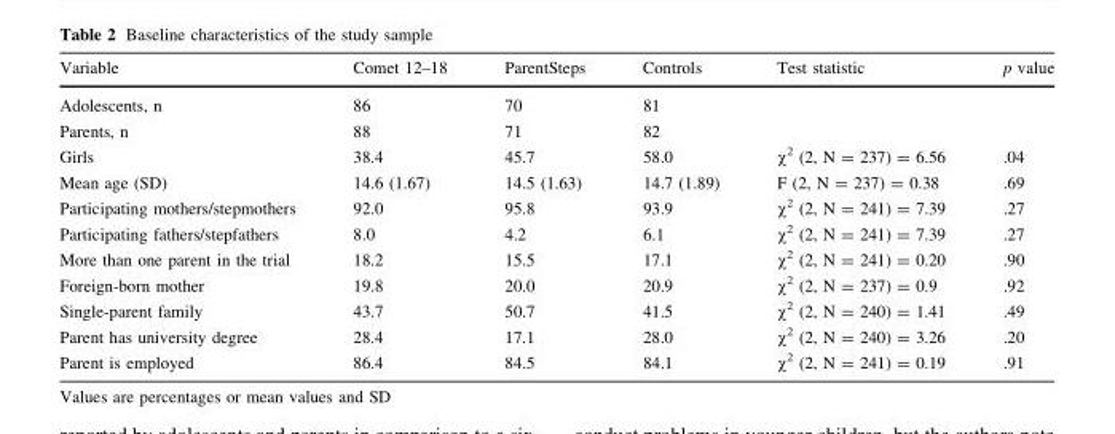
<table><thead><tr><td>Variable</td><td>Comet 12–18</td><td>ParentSteps</td><td>Controls</td><td>Test statistic</td><td>p value</td></tr></thead><tbody><tr><td>Adolescents, n</td><td>86</td><td>70</td><td>81</td><td></td><td></td></tr><tr><td>Parents, n</td><td>88</td><td>71</td><td>82</td><td></td><td></td></tr><tr><td>Girls</td><td>38.4</td><td>45.7</td><td>58.0</td><td>χ<sup>2</sup> (2, N = 237) = 6.56</td><td>.04</td></tr><tr><td>Mean age (SD)</td><td>14.6 (1.67)</td><td>14.5 (1.63)</td><td>14.7 (1.89)</td><td>F (2, N = 237) = 0.38</td><td>.69</td></tr><tr><td>Participating mothers/stepmothers</td><td>92.0</td><td>95.8</td><td>93.9</td><td>χ<sup>2</sup> (2, N = 241) = 7.39</td><td>.27</td></tr><tr><td>Participating fathers/stepfathers</td><td>8.0</td><td>4.2</td><td>6.1</td><td>χ<sup>2</sup> (2, N = 241) = 7.39</td><td>.27</td></tr><tr><td>More than one parent in the trial</td><td>18.2</td><td>15.5</td><td>17.1</td><td>χ<sup>2</sup> (2, N = 241) = 0.20</td><td>.90</td></tr><tr><td>Foreign-born mother</td><td>19.8</td><td>20.0</td><td>20.9</td><td>χ<sup>2</sup> (2, N = 237) = 0.9</td><td>.92</td></tr><tr><td>Single-parent family</td><td>43.7</td><td>50.7</td><td>41.5</td><td>χ<sup>2</sup> (2, N = 240) = 1.41</td><td>.49</td></tr><tr><td>Parent has university degree</td><td>28.4</td><td>17.1</td><td>28.0</td><td>χ<sup>2</sup> (2, N = 240) = 3.26</td><td>.20</td></tr><tr><td>Parent is employed</td><td>86.4</td><td>84.5</td><td>84.1</td><td>χ<sup>2</sup> (2, N = 241) = 0.19</td><td>.91</td></tr></tbody></table>